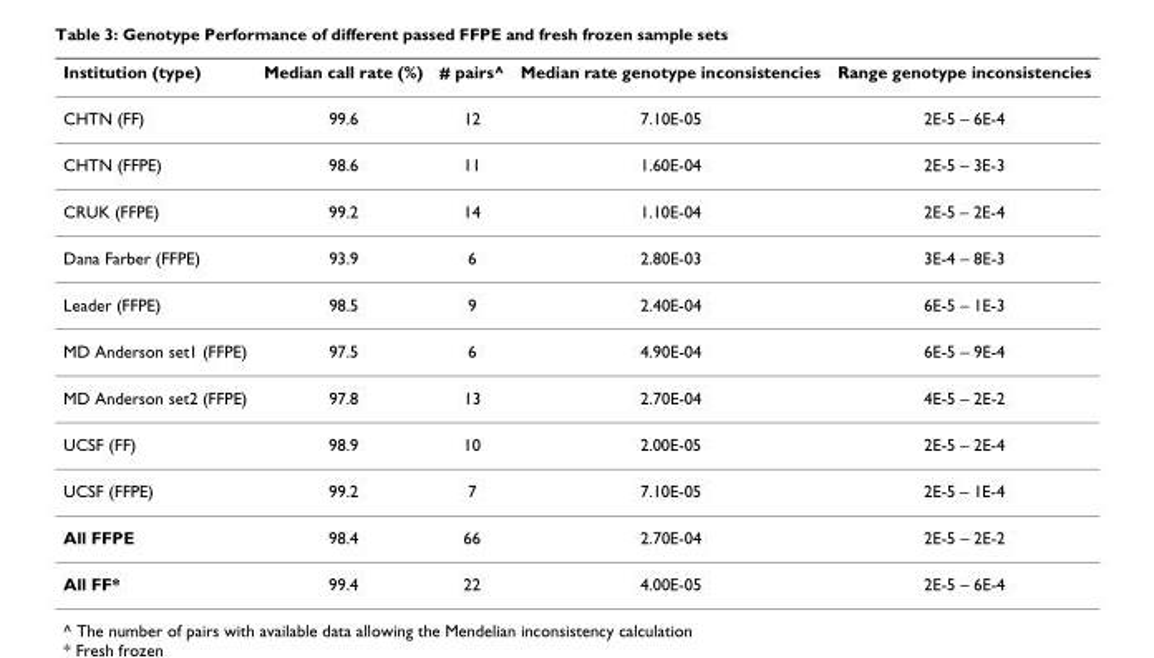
<table><thead><tr><td>Institution (type)</td><td>Median call rate (%)</td><td># pairs^</td><td>Median rate genotype inconsistencies</td><td>Range genotype inconsistencies</td></tr></thead><tbody><tr><td>CHTN (FF)</td><td>99.6</td><td>12</td><td>7.10E-05</td><td>2E-5 – 6E-4</td></tr><tr><td>CHTN (FFPE)</td><td>98.6</td><td>11</td><td>1.60E-04</td><td>2E-5 – 3E-3</td></tr><tr><td>CRUK (FFPE)</td><td>99.2</td><td>14</td><td>1.10E-04</td><td>2E-5 – 2E-4</td></tr><tr><td>Dana Farber (FFPE)</td><td>93.9</td><td>6</td><td>2.80E-03</td><td>3E-4 – 8E-3</td></tr><tr><td>Leader (FFPE)</td><td>98.5</td><td>9</td><td>2.40E-04</td><td>6E-5 – 1E-3</td></tr><tr><td>MD Anderson set1 (FFPE)</td><td>97.5</td><td>6</td><td>4.90E-04</td><td>6E-5 – 9E-4</td></tr><tr><td>MD Anderson set2 (FFPE)</td><td>97.8</td><td>13</td><td>2.70E-04</td><td>4E-5 – 2E-2</td></tr><tr><td>UCSF (FF)</td><td>98.9</td><td>10</td><td>2.00E-05</td><td>2E-5 – 2E-4</td></tr><tr><td>UCSF (FFPE)</td><td>99.2</td><td>7</td><td>7.10E-05</td><td>2E-5 – 1E-4</td></tr><tr><td>All FFPE</td><td>98.4</td><td>66</td><td>2.70E-04</td><td>2E-5 – 2E-2</td></tr><tr><td>All FF*</td><td>99.4</td><td>22</td><td>4.00E-05</td><td>2E-5 – 6E-4</td></tr></tbody></table>